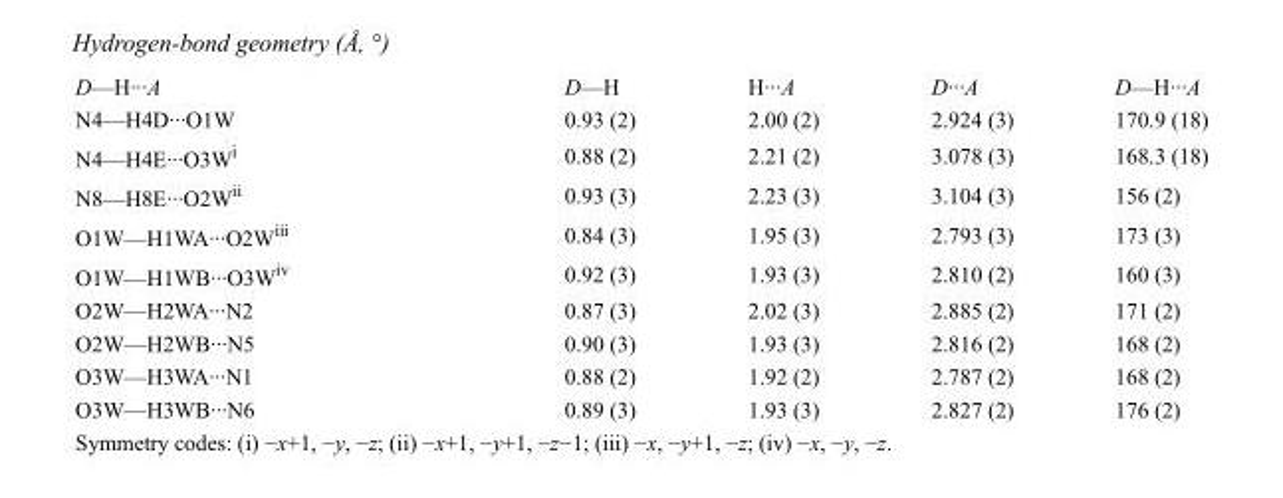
<table><tbody><tr><td>D—H···A</td><td>D—H</td><td>H···A</td><td>D···A</td><td>D—H···A</td></tr><tr><td>N4—H4D···O1W</td><td>0.93 (2)</td><td>2.00 (2)</td><td>2.924 (3)</td><td>170.9 (18)</td></tr><tr><td>N4—H4E···O3W<sup>i</sup></td><td>0.88 (2)</td><td>2.21 (2)</td><td>3.078 (3)</td><td>168.3 (18)</td></tr><tr><td>N8—H8E···O2W<sup>ii</sup></td><td>0.93 (3)</td><td>2.23 (3)</td><td>3.104 (3)</td><td>156 (2)</td></tr><tr><td>O1W—H1WA···O2W<sup>iii</sup></td><td>0.84 (3)</td><td>1.95 (3)</td><td>2.793 (3)</td><td>173 (3)</td></tr><tr><td>O1W—H1WB···O3W<sup>iv</sup></td><td>0.92 (3)</td><td>1.93 (3)</td><td>2.810 (2)</td><td>160 (3)</td></tr><tr><td>O2W—H2WA···N2</td><td>0.87 (3)</td><td>2.02 (3)</td><td>2.885 (2)</td><td>171 (2)</td></tr><tr><td>O2W—H2WB···N5</td><td>0.90 (3)</td><td>1.93 (3)</td><td>2.816 (2)</td><td>168 (2)</td></tr><tr><td>O3W—H3WA···N1</td><td>0.88 (2)</td><td>1.92 (2)</td><td>2.787 (2)</td><td>168 (2)</td></tr><tr><td>O3W—H3WB···N6</td><td>0.89 (3)</td><td>1.93 (3)</td><td>2.827 (2)</td><td>176 (2)</td></tr></tbody></table>